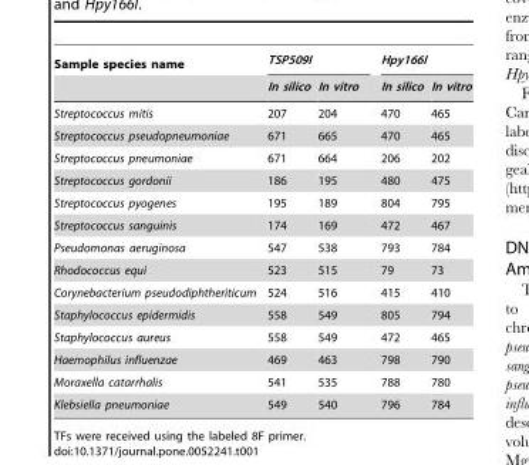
<table><thead><tr><td rowspan="2">Sample species name</td><td colspan="2">TSP509I</td><td colspan="2">Hpy166I</td></tr><tr><td>In silico</td><td>In vitro</td><td>In silico</td><td>In vitro</td></tr></thead><tbody><tr><td>Streptococcus mitis</td><td>207</td><td>204</td><td>470</td><td>465</td></tr><tr><td>Streptococcus pseudopneumoniae</td><td>671</td><td>665</td><td>470</td><td>465</td></tr><tr><td>Streptococcus pneumoniae</td><td>671</td><td>664</td><td>206</td><td>202</td></tr><tr><td>Streptococcus gordonii</td><td>186</td><td>195</td><td>480</td><td>475</td></tr><tr><td>Streptococcus pyogenes</td><td>195</td><td>189</td><td>804</td><td>795</td></tr><tr><td>Streptococcus sanguinis</td><td>174</td><td>169</td><td>472</td><td>467</td></tr><tr><td>Pseudomonas aeruginosa</td><td>547</td><td>538</td><td>793</td><td>784</td></tr><tr><td>Rhodococcus equi</td><td>523</td><td>515</td><td>79</td><td>73</td></tr><tr><td>Corynebacterium pseudodiphtheriticum</td><td>524</td><td>516</td><td>415</td><td>410</td></tr><tr><td>Staphylococcus epidermidis</td><td>558</td><td>549</td><td>805</td><td>794</td></tr><tr><td>Staphylococcus aureus</td><td>558</td><td>549</td><td>472</td><td>465</td></tr><tr><td>Haemophilus influenzae</td><td>469</td><td>463</td><td>798</td><td>790</td></tr><tr><td>Moraxella catarrhalis</td><td>541</td><td>535</td><td>788</td><td>780</td></tr><tr><td>Klebsiella pneumoniae</td><td>549</td><td>540</td><td>796</td><td>784</td></tr></tbody></table>